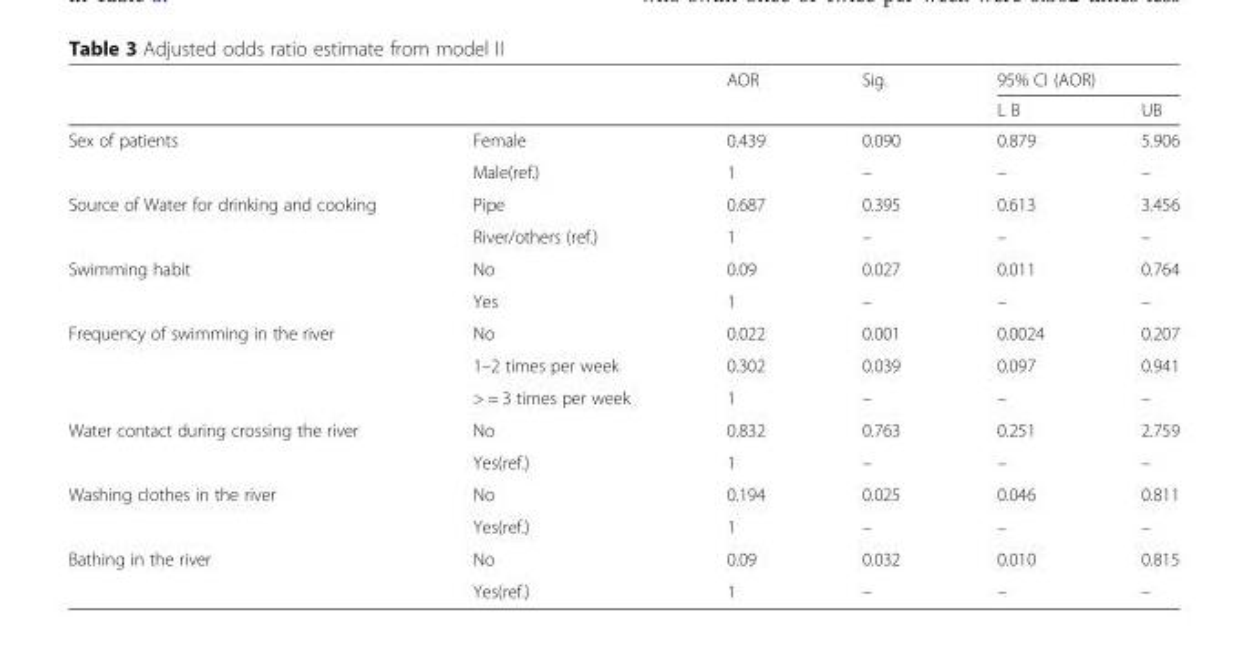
<table><thead><tr><td rowspan="2"></td><td rowspan="2"></td><td rowspan="2">AOR</td><td rowspan="2">Sig.</td><td colspan="2">95% CI (AOR)</td></tr><tr><td>L B</td><td>UB</td></tr></thead><tbody><tr><td rowspan="2">Sex of patients</td><td>Female</td><td>0.439</td><td>0.090</td><td>0.879</td><td>5.906</td></tr><tr><td>Male(ref.)</td><td>1</td><td>–</td><td>–</td><td>–</td></tr><tr><td rowspan="2">Source of Water for drinking and cooking</td><td>Pipe</td><td>0.687</td><td>0.395</td><td>0.613</td><td>3.456</td></tr><tr><td>River/others (ref.)</td><td>1</td><td>–</td><td>–</td><td>–</td></tr><tr><td rowspan="2">Swimming habit</td><td>No</td><td>0.09</td><td>0.027</td><td>0.011</td><td>0.764</td></tr><tr><td>Yes</td><td>1</td><td>–</td><td>–</td><td>–</td></tr><tr><td rowspan="3">Frequency of swimming in the river</td><td>No</td><td>0.022</td><td>0.001</td><td>0.0024</td><td>0.207</td></tr><tr><td>1–2 times per week</td><td>0.302</td><td>0.039</td><td>0.097</td><td>0.941</td></tr><tr><td>&gt; = 3 times per week</td><td>1</td><td>–</td><td>–</td><td>–</td></tr><tr><td rowspan="2">Water contact during crossing the river</td><td>No</td><td>0.832</td><td>0.763</td><td>0.251</td><td>2.759</td></tr><tr><td>Yes(ref.)</td><td>1</td><td>–</td><td>–</td><td>–</td></tr><tr><td rowspan="2">Washing clothes in the river</td><td>No</td><td>0.194</td><td>0.025</td><td>0.046</td><td>0.811</td></tr><tr><td>Yes(ref.)</td><td>1</td><td>–</td><td>–</td><td>–</td></tr><tr><td rowspan="2">Bathing in the river</td><td>No</td><td>0.09</td><td>0.032</td><td>0.010</td><td>0.815</td></tr><tr><td>Yes(ref.)</td><td>1</td><td>–</td><td>–</td><td>–</td></tr></tbody></table>